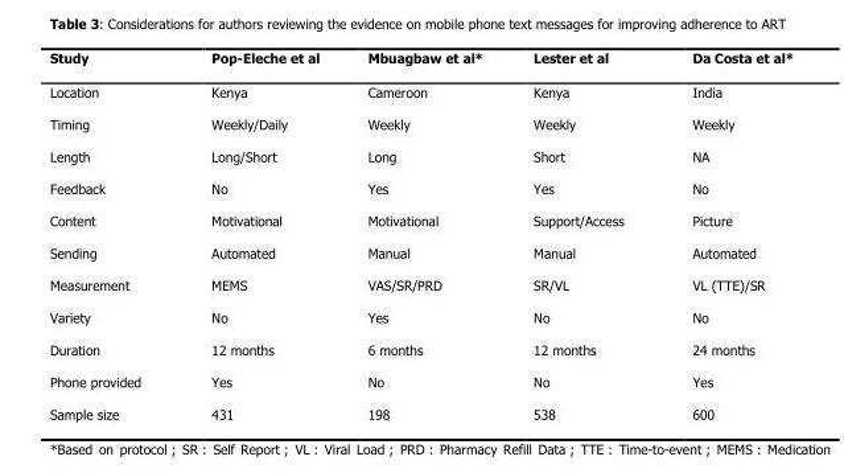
<table><thead><tr><td>Study</td><td>Pop-Eleche et al</td><td>Mbuagbaw et al*</td><td>Lester et al</td><td>Da Costa et al*</td></tr></thead><tbody><tr><td>Location</td><td>Kenya</td><td>Cameroon</td><td>Kenya</td><td>India</td></tr><tr><td>Timing</td><td>Weekly/Daily</td><td>Weekly</td><td>Weekly</td><td>Weekly</td></tr><tr><td>Length</td><td>Long/Short</td><td>Long</td><td>Short</td><td>NA</td></tr><tr><td>Feedback</td><td>No</td><td>Yes</td><td>Yes</td><td>No</td></tr><tr><td>Content</td><td>Motivational</td><td>Motivational</td><td>Support/Access</td><td>Picture</td></tr><tr><td>Sending</td><td>Automated</td><td>Manual</td><td>Manual</td><td>Automated</td></tr><tr><td>Measurement</td><td>MEMS</td><td>VAS/SR/PRD</td><td>SR/VL</td><td>VL (TTE)/SR</td></tr><tr><td>Variety</td><td>No</td><td>Yes</td><td>No</td><td>No</td></tr><tr><td>Duration</td><td>12 months</td><td>6 months</td><td>12 months</td><td>24 months</td></tr><tr><td>Phone provided</td><td>Yes</td><td>No</td><td>No</td><td>Yes</td></tr><tr><td>Sample size</td><td>431</td><td>198</td><td>538</td><td>600</td></tr></tbody></table>